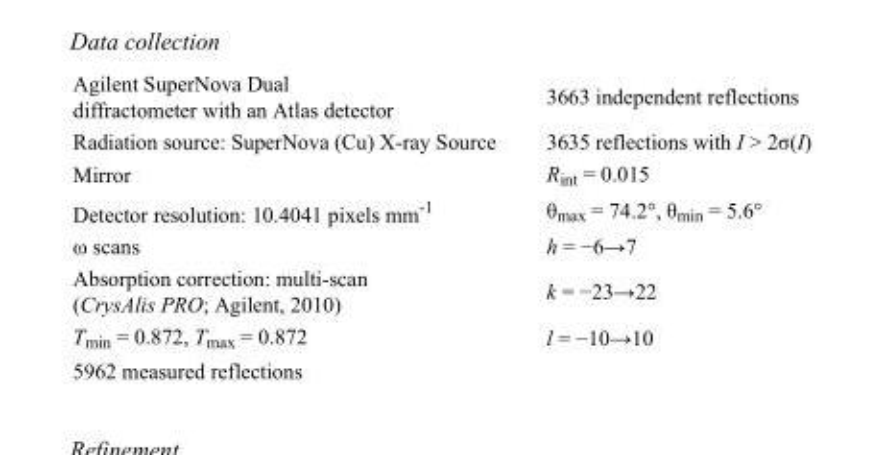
<table><tbody><tr><td>Agilent SuperNova Dual diffractometer with an Atlas detector</td><td>3663 independent reflections</td></tr><tr><td>Radiation source: SuperNova (Cu) X-ray Source</td><td>3635 reflections with I &gt; 2σ(I)</td></tr><tr><td>Mirror</td><td>R<sub>int</sub> = 0.015</td></tr><tr><td>Detector resolution: 10.4041 pixels mm<sup>-1</sup></td><td>θ<sub>max</sub> = 74.2°, θ<sub>min</sub> = 5.6°</td></tr><tr><td>ω scans</td><td>h = −6→7</td></tr><tr><td>Absorption correction: multi-scan (CrysAlis PRO; Agilent, 2010)</td><td>k = −23→22</td></tr><tr><td>T<sub>min</sub> = 0.872, T<sub>max</sub> = 0.872</td><td>l = −10→10</td></tr><tr><td>5962 measured reflections</td><td></td></tr></tbody></table>